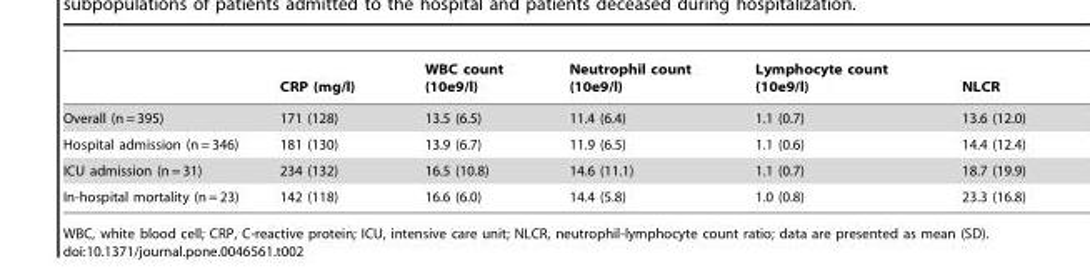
<table><thead><tr><td></td><td>CRP (mg/l)</td><td>WBC count (10e9/l)</td><td>Neutrophil count (10e9/l)</td><td>Lymphocyte count (10e9/l)</td><td>NLCR</td></tr></thead><tbody><tr><td>Overall (n = 395)</td><td>171 (128)</td><td>13.5 (6.5)</td><td>11.4 (6.4)</td><td>1.1 (0.7)</td><td>13.6 (12.0)</td></tr><tr><td>Hospital admission (n = 346)</td><td>181 (130)</td><td>13.9 (6.7)</td><td>11.9 (6.5)</td><td>1.1 (0.6)</td><td>14.4 (12.4)</td></tr><tr><td>ICU admission (n = 31)</td><td>234 (132)</td><td>16.5 (10.8)</td><td>14.6 (11.1)</td><td>1.1 (0.7)</td><td>18.7 (19.9)</td></tr><tr><td>In-hospital mortality (n = 23)</td><td>142 (118)</td><td>16.6 (6.0)</td><td>14.4 (5.8)</td><td>1.0 (0.8)</td><td>23.3 (16.8)</td></tr></tbody></table>